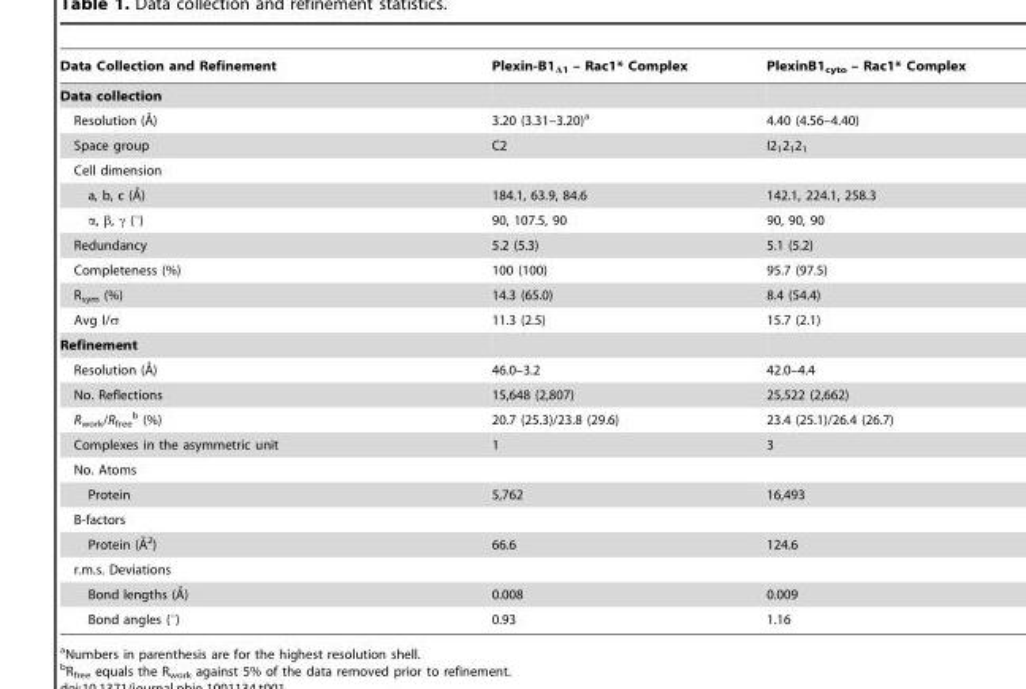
<table><thead><tr><td>Data Collection and Refinement</td><td>Plexin-B1<sub>Δ1</sub> – Rac1* Complex</td><td>PlexinB1<sub>cyto</sub> – Rac1* Complex</td></tr></thead><tbody><tr><td colspan="3">Data collection</td></tr><tr><td>Resolution (A˚)</td><td>3.20 (3.31–3.20)<sup>a</sup></td><td>4.40 (4.56–4.40)</td></tr><tr><td>Space group</td><td>C2</td><td>I2<sub>1</sub>2<sub>1</sub>2<sub>1</sub></td></tr><tr><td colspan="3">Cell dimension</td></tr><tr><td>a, b, c (A˚)</td><td>184.1, 63.9, 84.6</td><td>142.1, 224.1, 258.3</td></tr><tr><td>α, β, γ (°)</td><td>90, 107.5, 90</td><td>90, 90, 90</td></tr><tr><td>Redundancy</td><td>5.2 (5.3)</td><td>5.1 (5.2)</td></tr><tr><td>Completeness (%)</td><td>100 (100)</td><td>95.7 (97.5)</td></tr><tr><td>R<sub>sym</sub> (%)</td><td>14.3 (65.0)</td><td>8.4 (54.4)</td></tr><tr><td>Avg I/σ</td><td>11.3 (2.5)</td><td>15.7 (2.1)</td></tr><tr><td colspan="3">Refinement</td></tr><tr><td>Resolution (A˚)</td><td>46.0–3.2</td><td>42.0–4.4</td></tr><tr><td>No. Reflections</td><td>15,648 (2,807)</td><td>25,522 (2,662)</td></tr><tr><td>R<sub>work</sub>/R<sub>free</sub> <sup>b</sup> (%)</td><td>20.7 (25.3)/23.8 (29.6)</td><td>23.4 (25.1)/26.4 (26.7)</td></tr><tr><td>Complexes in the asymmetric unit</td><td>1</td><td>3</td></tr><tr><td colspan="3">No. Atoms</td></tr><tr><td>Protein</td><td>5,762</td><td>16,493</td></tr><tr><td colspan="3">B-factors</td></tr><tr><td>Protein (A˚ 2)</td><td>66.6</td><td>124.6</td></tr><tr><td colspan="3">r.m.s. Deviations</td></tr><tr><td>Bond lengths (A˚)</td><td>0.008</td><td>0.009</td></tr><tr><td>Bond angles (°)</td><td>0.93</td><td>1.16</td></tr></tbody></table>